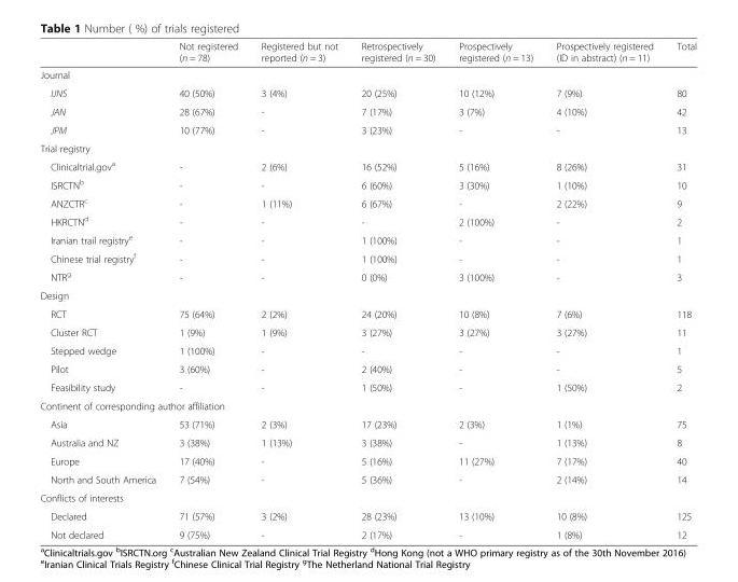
<table><thead><tr><td></td><td>Not registered (n = 78)</td><td>Registered but not reported (n = 3)</td><td>Retrospectively registered (n = 30)</td><td>Prospectively registered (n = 13)</td><td>Prospectively registered (ID in abstract) (n = 11)</td><td>Total</td></tr></thead><tbody><tr><td colspan="7">Journal</td></tr><tr><td>IJNS</td><td>40 (50%)</td><td>3 (4%)</td><td>20 (25%)</td><td>10 (12%)</td><td>7 (9%)</td><td>80</td></tr><tr><td>JAN</td><td>28 (67%)</td><td>-</td><td>7 (17%)</td><td>3 (7%)</td><td>4 (10%)</td><td>42</td></tr><tr><td>JPM</td><td>10 (77%)</td><td>-</td><td>3 (23%)</td><td>-</td><td>-</td><td>13</td></tr><tr><td colspan="7">Trial registry</td></tr><tr><td>Clinicaltrial.gov<sup>a</sup></td><td>-</td><td>2 (6%)</td><td>16 (52%)</td><td>5 (16%)</td><td>8 (26%)</td><td>31</td></tr><tr><td>ISRCTN<sup>b</sup></td><td>-</td><td>-</td><td>6 (60%)</td><td>3 (30%)</td><td>1 (10%)</td><td>10</td></tr><tr><td>ANZCTR<sup>c</sup></td><td>-</td><td>1 (11%)</td><td>6 (67%)</td><td>-</td><td>2 (22%)</td><td>9</td></tr><tr><td>HKRCTN<sup>d</sup></td><td>-</td><td>-</td><td>-</td><td>2 (100%)</td><td>-</td><td>2</td></tr><tr><td>Iranian trail registry<sup>e</sup></td><td>-</td><td>-</td><td>1 (100%)</td><td>-</td><td>-</td><td>1</td></tr><tr><td>Chinese trial registry<sup>f</sup></td><td>-</td><td>-</td><td>1 (100%)</td><td>-</td><td>-</td><td>1</td></tr><tr><td>NTR<sup>g</sup></td><td>-</td><td>-</td><td>0 (0%)</td><td>3 (100%)</td><td>-</td><td>3</td></tr><tr><td colspan="7">Design</td></tr><tr><td>RCT</td><td>75 (64%)</td><td>2 (2%)</td><td>24 (20%)</td><td>10 (8%)</td><td>7 (6%)</td><td>118</td></tr><tr><td>Cluster RCT</td><td>1 (9%)</td><td>1 (9%)</td><td>3 (27%)</td><td>3 (27%)</td><td>3 (27%)</td><td>11</td></tr><tr><td>Stepped wedge</td><td>1 (100%)</td><td>-</td><td>-</td><td>-</td><td>-</td><td>1</td></tr><tr><td>Pilot</td><td>3 (60%)</td><td>-</td><td>2 (40%)</td><td>-</td><td>-</td><td>5</td></tr><tr><td>Feasibility study</td><td>-</td><td>-</td><td>1 (50%)</td><td>-</td><td>1 (50%)</td><td>2</td></tr><tr><td colspan="7">Continent of corresponding author affiliation</td></tr><tr><td>Asia</td><td>53 (71%)</td><td>2 (3%)</td><td>17 (23%)</td><td>2 (3%)</td><td>1 (1%)</td><td>75</td></tr><tr><td>Australia and NZ</td><td>3 (38%)</td><td>1 (13%)</td><td>3 (38%)</td><td>-</td><td>1 (13%)</td><td>8</td></tr><tr><td>Europe</td><td>17 (40%)</td><td>-</td><td>5 (16%)</td><td>11 (27%)</td><td>7 (17%)</td><td>40</td></tr><tr><td>North and South America</td><td>7 (54%)</td><td>-</td><td>5 (36%)</td><td>-</td><td>2 (14%)</td><td>14</td></tr><tr><td colspan="7">Conflicts of interests</td></tr><tr><td>Declared</td><td>71 (57%)</td><td>3 (2%)</td><td>28 (23%)</td><td>13 (10%)</td><td>10 (8%)</td><td>125</td></tr><tr><td>Not declared</td><td>9 (75%)</td><td>-</td><td>2 (17%)</td><td>-</td><td>1 (8%)</td><td>12</td></tr></tbody></table>